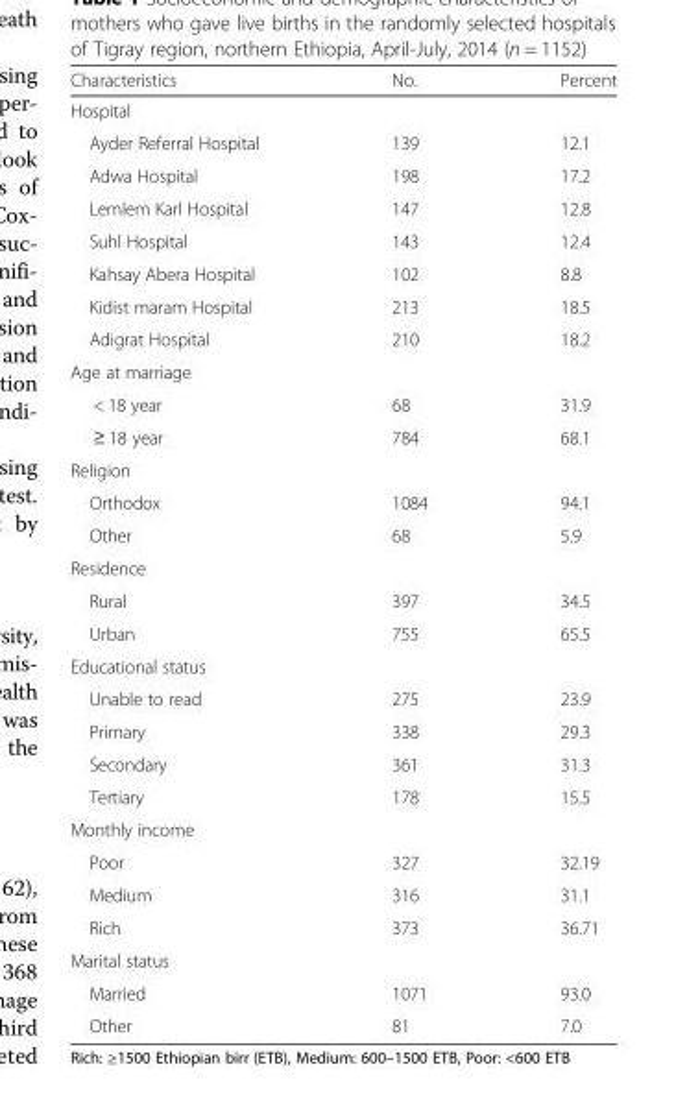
<table><thead><tr><td>Characteristics</td><td>No.</td><td>Percent</td></tr></thead><tbody><tr><td colspan="3">Hospital</td></tr><tr><td>Ayder Referral Hospital</td><td>139</td><td>12.1</td></tr><tr><td>Adwa Hospital</td><td>198</td><td>17.2</td></tr><tr><td>Lemlem Karl Hospital</td><td>147</td><td>12.8</td></tr><tr><td>Suhl Hospital</td><td>143</td><td>12.4</td></tr><tr><td>Kahsay Abera Hospital</td><td>102</td><td>8.8</td></tr><tr><td>Kidist maram Hospital</td><td>213</td><td>18.5</td></tr><tr><td>Adigrat Hospital</td><td>210</td><td>18.2</td></tr><tr><td colspan="3">Age at marriage</td></tr><tr><td>&lt; 18 year</td><td>68</td><td>31.9</td></tr><tr><td>≥ 18 year</td><td>784</td><td>68.1</td></tr><tr><td colspan="3">Religion</td></tr><tr><td>Orthodox</td><td>1084</td><td>94.1</td></tr><tr><td>Other</td><td>68</td><td>5.9</td></tr><tr><td colspan="3">Residence</td></tr><tr><td>Rural</td><td>397</td><td>34.5</td></tr><tr><td>Urban</td><td>755</td><td>65.5</td></tr><tr><td colspan="3">Educational status</td></tr><tr><td>Unable to read</td><td>275</td><td>23.9</td></tr><tr><td>Primary</td><td>338</td><td>29.3</td></tr><tr><td>Secondary</td><td>361</td><td>31.3</td></tr><tr><td>Tertiary</td><td>178</td><td>15.5</td></tr><tr><td colspan="3">Monthly income</td></tr><tr><td>Poor</td><td>327</td><td>32.19</td></tr><tr><td>Medium</td><td>316</td><td>31.1</td></tr><tr><td>Rich</td><td>373</td><td>36.71</td></tr><tr><td colspan="3">Marital status</td></tr><tr><td>Married</td><td>1071</td><td>93.0</td></tr><tr><td>Other</td><td>81</td><td>7.0</td></tr></tbody></table>